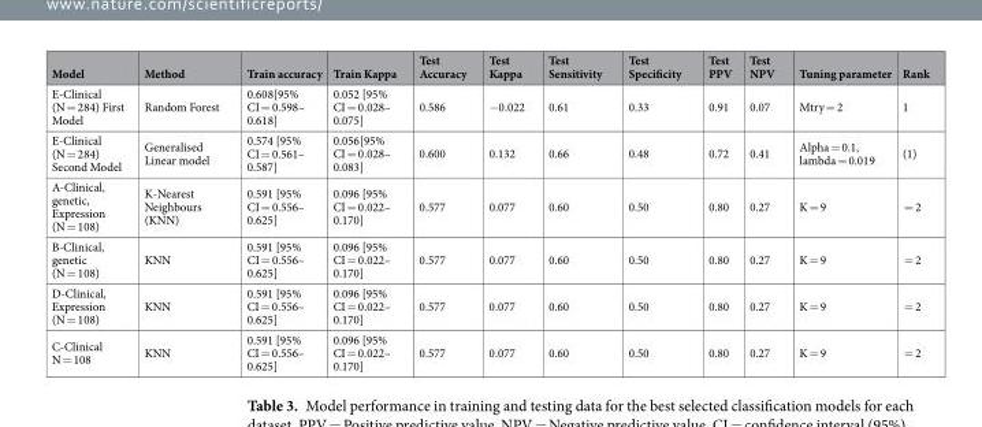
<table><thead><tr><td>Model</td><td>Method</td><td>Train accuracy</td><td>Train Kappa</td><td>Test Accuracy</td><td>Test Kappa</td><td>Test Sensitivity</td><td>Test Specificity</td><td>Test PPV</td><td>Test NPV</td><td>Tuning parameter</td><td>Rank</td></tr></thead><tbody><tr><td>E-Clinical (N = 284) First Model</td><td>Random Forest</td><td>0.608[95% CI = 0.598– 0.618]</td><td>0.052 [95% CI = 0.028– 0.075]</td><td>0.586</td><td>−0.022</td><td>0.61</td><td>0.33</td><td>0.91</td><td>0.07</td><td>Mtry = 2</td><td>1</td></tr><tr><td>E-Clinical (N = 284) Second Model</td><td>Generalised Linear model</td><td>0.574 [95% CI = 0.561– 0.587]</td><td>0.056[95% CI = 0.028– 0.083]</td><td>0.600</td><td>0.132</td><td>0.66</td><td>0.48</td><td>0.72</td><td>0.41</td><td>Alpha = 0.1, lambda = 0.019</td><td>(1)</td></tr><tr><td>A-Clinical, genetic, Expression (N = 108)</td><td>K-Nearest Neighbours (KNN)</td><td>0.591 [95% CI = 0.556– 0.625]</td><td>0.096 [95% CI = 0.022– 0.170]</td><td>0.577</td><td>0.077</td><td>0.60</td><td>0.50</td><td>0.80</td><td>0.27</td><td>K = 9</td><td>= 2</td></tr><tr><td>B-Clinical, genetic (N = 108)</td><td>KNN</td><td>0.591 [95% CI = 0.556– 0.625]</td><td>0.096 [95% CI = 0.022– 0.170]</td><td>0.577</td><td>0.077</td><td>0.60</td><td>0.50</td><td>0.80</td><td>0.27</td><td>K = 9</td><td>= 2</td></tr><tr><td>D-Clinical, Expression (N = 108)</td><td>KNN</td><td>0.591 [95% CI = 0.556– 0.625]</td><td>0.096 [95% CI = 0.022– 0.170]</td><td>0.577</td><td>0.077</td><td>0.60</td><td>0.50</td><td>0.80</td><td>0.27</td><td>K = 9</td><td>= 2</td></tr><tr><td>C-Clinical N = 108</td><td>KNN</td><td>0.591 [95% CI = 0.556– 0.625]</td><td>0.096 [95% CI = 0.022– 0.170]</td><td>0.577</td><td>0.077</td><td>0.60</td><td>0.50</td><td>0.80</td><td>0.27</td><td>K = 9</td><td>= 2</td></tr></tbody></table>